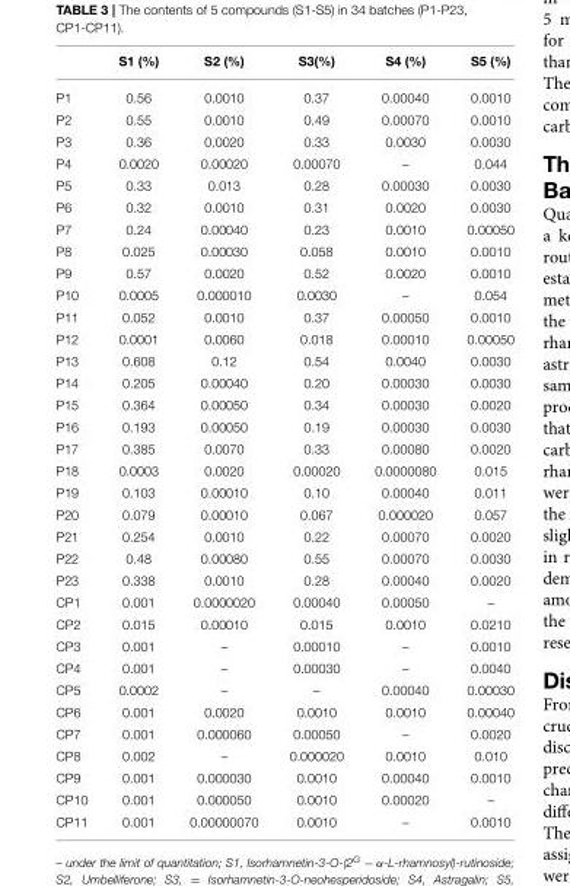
<table><thead><tr><td></td><td>S1 (%)</td><td>S2 (%)</td><td>S3(%)</td><td>S4 (%)</td><td>S5 (%)</td></tr></thead><tbody><tr><td>P1</td><td>0.56</td><td>0.0010</td><td>0.37</td><td>0.00040</td><td>0.0010</td></tr><tr><td>P2</td><td>0.55</td><td>0.0010</td><td>0.49</td><td>0.00070</td><td>0.0010</td></tr><tr><td>P3</td><td>0.36</td><td>0.0020</td><td>0.33</td><td>0.0030</td><td>0.0030</td></tr><tr><td>P4</td><td>0.0020</td><td>0.00020</td><td>0.00070</td><td>–</td><td>0.044</td></tr><tr><td>P5</td><td>0.33</td><td>0.013</td><td>0.28</td><td>0.00030</td><td>0.0030</td></tr><tr><td>P6</td><td>0.32</td><td>0.0010</td><td>0.31</td><td>0.0020</td><td>0.0030</td></tr><tr><td>P7</td><td>0.24</td><td>0.00040</td><td>0.23</td><td>0.0010</td><td>0.00050</td></tr><tr><td>P8</td><td>0.025</td><td>0.00030</td><td>0.058</td><td>0.0010</td><td>0.0010</td></tr><tr><td>P9</td><td>0.57</td><td>0.0020</td><td>0.52</td><td>0.0020</td><td>0.0010</td></tr><tr><td>P10</td><td>0.0005</td><td>0.000010</td><td>0.0030</td><td>–</td><td>0.054</td></tr><tr><td>P11</td><td>0.052</td><td>0.0010</td><td>0.37</td><td>0.00050</td><td>0.0010</td></tr><tr><td>P12</td><td>0.0001</td><td>0.0060</td><td>0.018</td><td>0.00010</td><td>0.00050</td></tr><tr><td>P13</td><td>0.608</td><td>0.12</td><td>0.54</td><td>0.0040</td><td>0.0030</td></tr><tr><td>P14</td><td>0.205</td><td>0.00040</td><td>0.20</td><td>0.00030</td><td>0.0030</td></tr><tr><td>P15</td><td>0.364</td><td>0.00050</td><td>0.34</td><td>0.00030</td><td>0.0020</td></tr><tr><td>P16</td><td>0.193</td><td>0.00050</td><td>0.19</td><td>0.00030</td><td>0.0030</td></tr><tr><td>P17</td><td>0.385</td><td>0.0070</td><td>0.33</td><td>0.00080</td><td>0.0020</td></tr><tr><td>P18</td><td>0.0003</td><td>0.0020</td><td>0.00020</td><td>0.0000080</td><td>0.015</td></tr><tr><td>P19</td><td>0.103</td><td>0.00010</td><td>0.10</td><td>0.00040</td><td>0.011</td></tr><tr><td>P20</td><td>0.079</td><td>0.00010</td><td>0.067</td><td>0.000020</td><td>0.057</td></tr><tr><td>P21</td><td>0.254</td><td>0.0010</td><td>0.22</td><td>0.00070</td><td>0.0020</td></tr><tr><td>P22</td><td>0.48</td><td>0.00080</td><td>0.55</td><td>0.00070</td><td>0.0030</td></tr><tr><td>P23</td><td>0.338</td><td>0.0010</td><td>0.28</td><td>0.00040</td><td>0.0020</td></tr><tr><td>CP1</td><td>0.001</td><td>0.0000020</td><td>0.00040</td><td>0.00050</td><td>–</td></tr><tr><td>CP2</td><td>0.015</td><td>0.00010</td><td>0.015</td><td>0.0010</td><td>0.0210</td></tr><tr><td>CP3</td><td>0.001</td><td>–</td><td>0.00010</td><td>–</td><td>0.0010</td></tr><tr><td>CP4</td><td>0.001</td><td>–</td><td>0.00030</td><td>–</td><td>0.0040</td></tr><tr><td>CP5</td><td>0.0002</td><td>–</td><td>–</td><td>0.00040</td><td>0.00030</td></tr><tr><td>CP6</td><td>0.001</td><td>0.0020</td><td>0.0010</td><td>0.0010</td><td>0.00040</td></tr><tr><td>CP7</td><td>0.001</td><td>0.000060</td><td>0.00050</td><td>–</td><td>0.0020</td></tr><tr><td>CP8</td><td>0.002</td><td>–</td><td>0.000020</td><td>0.0010</td><td>0.010</td></tr><tr><td>CP9</td><td>0.001</td><td>0.000030</td><td>0.0010</td><td>0.00040</td><td>0.0010</td></tr><tr><td>CP10</td><td>0.001</td><td>0.000050</td><td>0.0010</td><td>0.00020</td><td>–</td></tr><tr><td>CP11</td><td>0.001</td><td>0.00000070</td><td>0.0010</td><td>–</td><td>0.0010</td></tr></tbody></table>